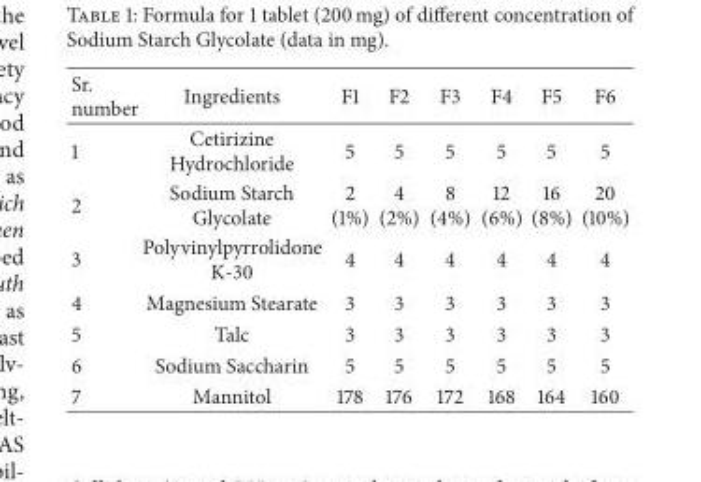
<table><thead><tr><td>Sr. number</td><td>Ingredients</td><td>F1</td><td>F2</td><td>F3</td><td>F4</td><td>F5</td><td>F6</td></tr></thead><tbody><tr><td>1</td><td>Cetirizine Hydrochloride</td><td>5</td><td>5</td><td>5</td><td>5</td><td>5</td><td>5</td></tr><tr><td>2</td><td>Sodium Starch Glycolate</td><td>2 (1%)</td><td>4 (2%)</td><td>8 (4%)</td><td>12 (6%)</td><td>16 (8%)</td><td>20 (10%)</td></tr><tr><td>3</td><td>Polyvinylpyrrolidone K-30</td><td>4</td><td>4</td><td>4</td><td>4</td><td>4</td><td>4</td></tr><tr><td>4</td><td>Magnesium Stearate</td><td>3</td><td>3</td><td>3</td><td>3</td><td>3</td><td>3</td></tr><tr><td>5</td><td>Talc</td><td>3</td><td>3</td><td>3</td><td>3</td><td>3</td><td>3</td></tr><tr><td>6</td><td>Sodium Saccharin</td><td>5</td><td>5</td><td>5</td><td>5</td><td>5</td><td>5</td></tr><tr><td>7</td><td>Mannitol</td><td>178</td><td>176</td><td>172</td><td>168</td><td>164</td><td>160</td></tr></tbody></table>